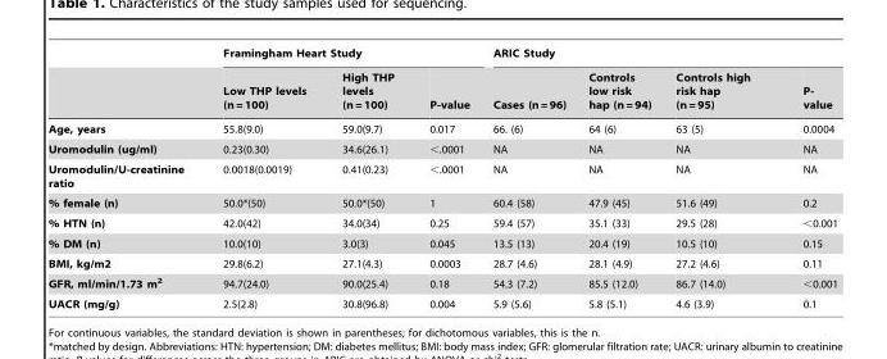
<table><thead><tr><td rowspan="2"></td><td colspan="3">Framingham Heart Study</td><td colspan="4">ARIC Study</td></tr><tr><td>Low THP levels (n = 100)</td><td>High THP levels (n = 100)</td><td>P-value</td><td>Cases (n = 96)</td><td>Controls low risk hap (n = 94)</td><td>Controls high risk hap (n = 95)</td><td>P- value</td></tr></thead><tbody><tr><td>Age, years</td><td>55.8(9.0)</td><td>59.0(9.7)</td><td>0.017</td><td>66. (6)</td><td>64 (6)</td><td>63 (5)</td><td>0.0004</td></tr><tr><td>Uromodulin (ug/ml)</td><td>0.23(0.30)</td><td>34.6(26.1)</td><td>&lt;.0001</td><td>NA</td><td>NA</td><td>NA</td><td>NA</td></tr><tr><td>Uromodulin/U-creatinine ratio</td><td>0.0018(0.0019)</td><td>0.41(0.23)</td><td>&lt;.0001</td><td>NA</td><td>NA</td><td>NA</td><td>NA</td></tr><tr><td>% female (n)</td><td>50.0*(50)</td><td>50.0*(50)</td><td>1</td><td>60.4 (58)</td><td>47.9 (45)</td><td>51.6 (49)</td><td>0.2</td></tr><tr><td>% HTN (n)</td><td>42.0(42)</td><td>34.0(34)</td><td>0.25</td><td>59.4 (57)</td><td>35.1 (33)</td><td>29.5 (28)</td><td>&lt;0.001</td></tr><tr><td>% DM (n)</td><td>10.0(10)</td><td>3.0(3)</td><td>0.045</td><td>13.5 (13)</td><td>20.4 (19)</td><td>10.5 (10)</td><td>0.15</td></tr><tr><td>BMI, kg/m2</td><td>29.8(6.2)</td><td>27.1(4.3)</td><td>0.0003</td><td>28.7 (4.6)</td><td>28.1 (4.9)</td><td>27.2 (4.6)</td><td>0.11</td></tr><tr><td>GFR, ml/min/1.73 m<sup>2</sup></td><td>94.7(24.0)</td><td>90.0(25.4)</td><td>0.18</td><td>54.3 (7.2)</td><td>85.5 (12.0)</td><td>86.7 (14.0)</td><td>&lt;0.001</td></tr><tr><td>UACR (mg/g)</td><td>2.5(2.8)</td><td>30.8(96.8)</td><td>0.004</td><td>5.9 (5.6)</td><td>5.8 (5.1)</td><td>4.6 (3.9)</td><td>0.1</td></tr></tbody></table>